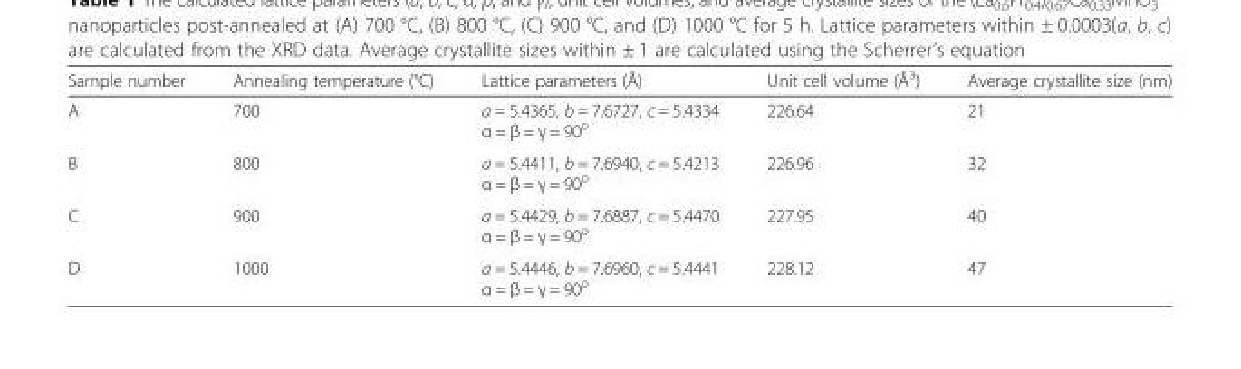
<table><thead><tr><td>Sample number</td><td>Annealing temperature (°C)</td><td>Lattice parameters (Å)</td><td>Unit cell volume (Å<sup>3</sup>)</td><td>Average crystallite size (nm)</td></tr></thead><tbody><tr><td>A</td><td>700</td><td>a = 5.4365, b = 7.6727, c = 5.4334 α = β = γ = 90<sup>o</sup></td><td>226.64</td><td>21</td></tr><tr><td>B</td><td>800</td><td>a = 5.4411, b = 7.6940, c = 5.4213 α = β = γ = 90<sup>o</sup></td><td>226.96</td><td>32</td></tr><tr><td>C</td><td>900</td><td>a = 5.4429, b = 7.6887, c = 5.4470 α = β = γ = 90<sup>o</sup></td><td>227.95</td><td>40</td></tr><tr><td>D</td><td>1000</td><td>a = 5.4446, b = 7.6960, c = 5.4441 α = β = γ = 90<sup>o</sup></td><td>228.12</td><td>47</td></tr></tbody></table>